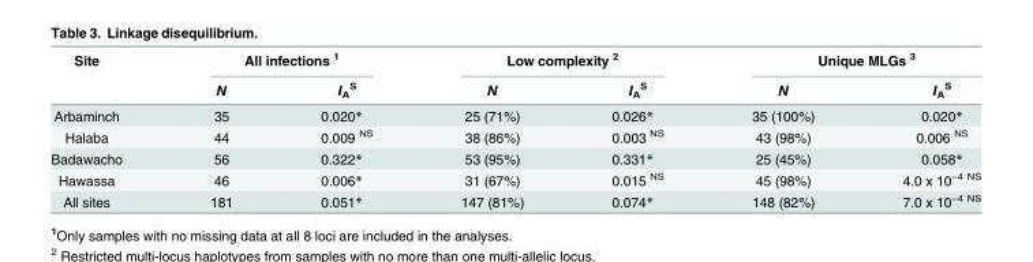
<table><thead><tr><td rowspan="2">Site</td><td colspan="2">All infections <sup>1</sup></td><td colspan="2">Low complexity <sup>2</sup></td><td colspan="2">Unique MLGs <sup>3</sup></td></tr><tr><td>N</td><td>I<sub>A</sub> <sup>S</sup></td><td>N</td><td>I<sub>A</sub> <sup>S</sup></td><td>N</td><td>I<sub>A</sub> <sup>S</sup></td></tr></thead><tbody><tr><td>Arbaminch</td><td>35</td><td>0.020*</td><td>25 (71%)</td><td>0.026*</td><td>35 (100%)</td><td>0.020*</td></tr><tr><td>Halaba</td><td>44</td><td>0.009 <sup>NS</sup></td><td>38 (86%)</td><td>0.003 <sup>NS</sup></td><td>43 (98%)</td><td>0.006 <sup>NS</sup></td></tr><tr><td>Badawacho</td><td>56</td><td>0.322*</td><td>53 (95%)</td><td>0.331*</td><td>25 (45%)</td><td>0.058*</td></tr><tr><td>Hawassa</td><td>46</td><td>0.006*</td><td>31 (67%)</td><td>0.015 <sup>NS</sup></td><td>45 (98%)</td><td>4.0 x 10<sup>−4 NS</sup></td></tr><tr><td>All sites</td><td>181</td><td>0.051*</td><td>147 (81%)</td><td>0.074*</td><td>148 (82%)</td><td>7.0 x 10<sup>−4 NS</sup></td></tr></tbody></table>